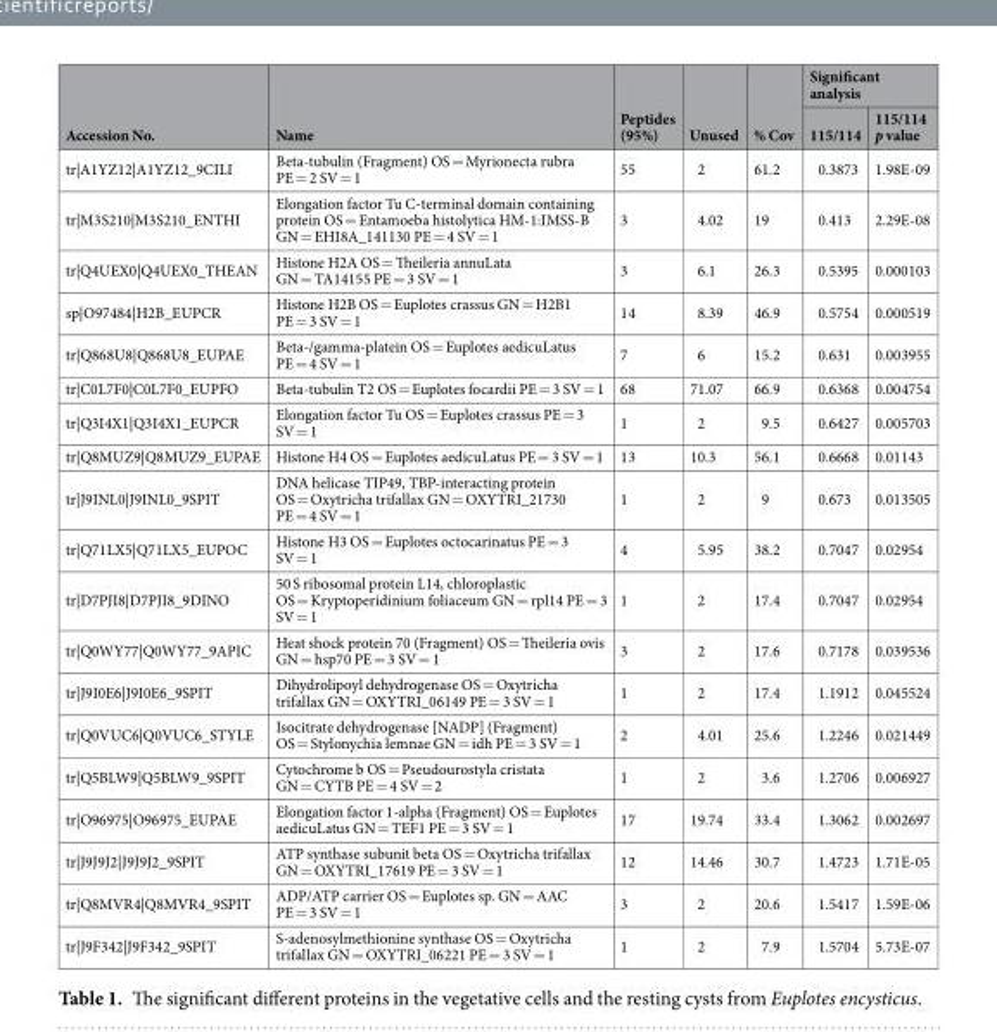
<table><thead><tr><td rowspan="2">Accession No.</td><td rowspan="2">Name</td><td rowspan="2">Peptides (95%)</td><td rowspan="2">Unused</td><td rowspan="2">% Cov</td><td colspan="2">Significant analysis</td></tr><tr><td>115/114</td><td>115/114 p value</td></tr></thead><tbody><tr><td>tr|A1YZ12|A1YZ12_9CILI</td><td>Beta-tubulin (Fragment) OS = Myrionecta rubra PE = 2 SV = 1</td><td>55</td><td>2</td><td>61.2</td><td>0.3873</td><td>1.98E-09</td></tr><tr><td>tr|M3S210|M3S210_ENTHI</td><td>Elongation factor Tu C-terminal domain containing protein OS = Entamoeba histolytica HM-1:IMSS-B GN = EHI8A_141130 PE = 4 SV = 1</td><td>3</td><td>4.02</td><td>19</td><td>0.413</td><td>2.29E-08</td></tr><tr><td>tr|Q4UEX0|Q4UEX0_THEAN</td><td>Histone H2A OS = Theileria annuLata GN = TA14155 PE = 3 SV = 1</td><td>3</td><td>6.1</td><td>26.3</td><td>0.5395</td><td>0.000103</td></tr><tr><td>sp|O97484|H2B_EUPCR</td><td>Histone H2B OS = Euplotes crassus GN = H2B1 PE = 3 SV = 1</td><td>14</td><td>8.39</td><td>46.9</td><td>0.5754</td><td>0.000519</td></tr><tr><td>tr|Q868U8|Q868U8_EUPAE</td><td>Beta-/gamma-platein OS = Euplotes aedicuLatus PE = 4 SV = 1</td><td>7</td><td>6</td><td>15.2</td><td>0.631</td><td>0.003955</td></tr><tr><td>tr|C0L7F0|C0L7F0_EUPFO</td><td>Beta-tubulin T2 OS = Euplotes focardii PE = 3 SV = 1</td><td>68</td><td>71.07</td><td>66.9</td><td>0.6368</td><td>0.004754</td></tr><tr><td>tr|Q3I4X1|Q3I4X1_EUPCR</td><td>Elongation factor Tu OS = Euplotes crassus PE = 3 SV = 1</td><td>1</td><td>2</td><td>9.5</td><td>0.6427</td><td>0.005703</td></tr><tr><td>tr|Q8MUZ9|Q8MUZ9_EUPAE</td><td>Histone H4 OS = Euplotes aedicuLatus PE = 3 SV = 1</td><td>13</td><td>10.3</td><td>56.1</td><td>0.6668</td><td>0.01143</td></tr><tr><td>tr|J9INL0|J9INL0_9SPIT</td><td>DNA helicase TIP49, TBP-interacting protein OS = Oxytricha trifallax GN = OXYTRI_21730 PE = 4 SV = 1</td><td>1</td><td>2</td><td>9</td><td>0.673</td><td>0.013505</td></tr><tr><td>tr|Q71LX5|Q71LX5_EUPOC</td><td>Histone H3 OS = Euplotes octocarinatus PE = 3 SV = 1</td><td>4</td><td>5.95</td><td>38.2</td><td>0.7047</td><td>0.02954</td></tr><tr><td>tr|D7PJI8|D7PJI8_9DINO</td><td>50 S ribosomal protein L14, chloroplastic OS = Kryptoperidinium foliaceum GN = rpl14 PE = 3 SV = 1</td><td>1</td><td>2</td><td>17.4</td><td>0.7047</td><td>0.02954</td></tr><tr><td>tr|Q0WY77|Q0WY77_9APIC</td><td>Heat shock protein 70 (Fragment) OS = Theileria ovis GN = hsp70 PE = 3 SV = 1</td><td>3</td><td>2</td><td>17.6</td><td>0.7178</td><td>0.039536</td></tr><tr><td>tr|J9I0E6|J9I0E6_9SPIT</td><td>Dihydrolipoyl dehydrogenase OS = Oxytricha trifallax GN = OXYTRI_06149 PE = 3 SV = 1</td><td>1</td><td>2</td><td>17.4</td><td>1.1912</td><td>0.045524</td></tr><tr><td>tr|Q0VUC6|Q0VUC6_STYLE</td><td>Isocitrate dehydrogenase [NADP] (Fragment) OS = Stylonychia lemnae GN = idh PE = 3 SV = 1</td><td>2</td><td>4.01</td><td>25.6</td><td>1.2246</td><td>0.021449</td></tr><tr><td>tr|Q5BLW9|Q5BLW9_9SPIT</td><td>Cytochrome b OS = Pseudourostyla cristata GN = CYTB PE = 4 SV = 2</td><td>1</td><td>2</td><td>3.6</td><td>1.2706</td><td>0.006927</td></tr><tr><td>tr|O96975|O96975_EUPAE</td><td>Elongation factor 1-alpha (Fragment) OS = Euplotes aedicuLatus GN = TEF1 PE = 3 SV = 1</td><td>17</td><td>19.74</td><td>33.4</td><td>1.3062</td><td>0.002697</td></tr><tr><td>tr|J9J9J2|J9J9J2_9SPIT</td><td>ATP synthase subunit beta OS = Oxytricha trifallax GN = OXYTRI_17619 PE = 3 SV = 1</td><td>12</td><td>14.46</td><td>30.7</td><td>1.4723</td><td>1.71E-05</td></tr><tr><td>tr|Q8MVR4|Q8MVR4_9SPIT</td><td>ADP/ATP carrier OS = Euplotes sp. GN = AAC PE = 3 SV = 1</td><td>3</td><td>2</td><td>20.6</td><td>1.5417</td><td>1.59E-06</td></tr><tr><td>tr|J9F342|J9F342_9SPIT</td><td>S-adenosylmethionine synthase OS = Oxytricha trifallax GN = OXYTRI_06221 PE = 3 SV = 1</td><td>1</td><td>2</td><td>7.9</td><td>1.5704</td><td>5.73E-07</td></tr></tbody></table>